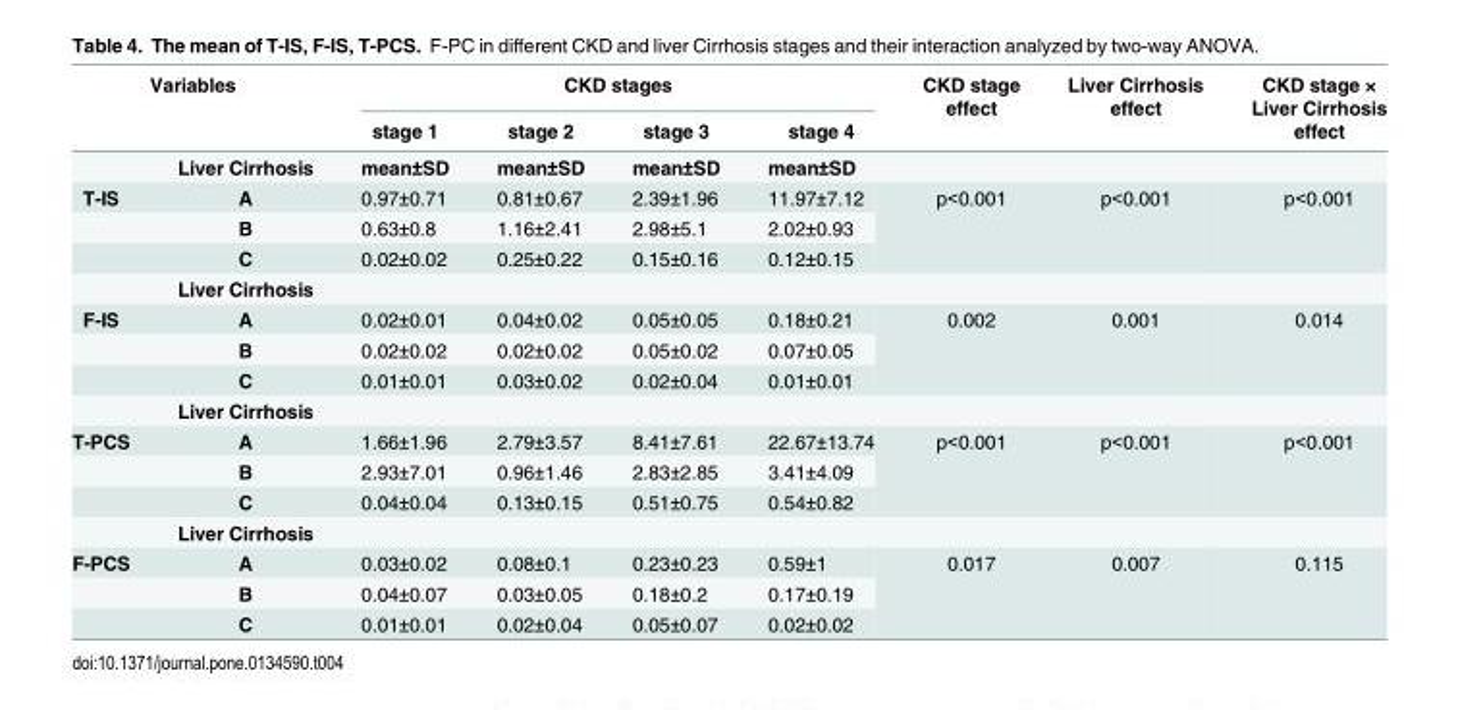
<table><thead><tr><td rowspan="3" colspan="2">Variables</td><td rowspan="2" colspan="4">CKD stages</td><td rowspan="4">CKD stage effect</td><td rowspan="4">Liver Cirrhosis effect</td><td rowspan="4">CKD stage × Liver Cirrhosis effect</td></tr><tr></tr><tr><td rowspan="2">stage 1 mean±SD</td><td rowspan="2">stage 2 mean±SD</td><td rowspan="2">stage 3 mean±SD</td><td rowspan="2">stage 4 mean±SD</td></tr><tr><td></td><td>Liver Cirrhosis</td></tr></thead><tbody><tr><td rowspan="4">T-IS</td><td>A</td><td>0.97±0.71</td><td>0.81±0.67</td><td>2.39±1.96</td><td>11.97±7.12</td><td rowspan="3">p&lt;0.001</td><td rowspan="3">p&lt;0.001</td><td rowspan="3">p&lt;0.001</td></tr><tr><td>B</td><td>0.63±0.8</td><td>1.16±2.41</td><td>2.98±5.1</td><td>2.02±0.93</td></tr><tr><td>C</td><td>0.02±0.02</td><td>0.25±0.22</td><td>0.15±0.16</td><td>0.12±0.15</td></tr><tr><td>Liver Cirrhosis</td><td></td><td></td><td></td><td></td><td></td><td></td><td></td></tr><tr><td rowspan="4">F-IS</td><td>A</td><td>0.02±0.01</td><td>0.04±0.02</td><td>0.05±0.05</td><td>0.18±0.21</td><td rowspan="3">0.002</td><td rowspan="3">0.001</td><td rowspan="3">0.014</td></tr><tr><td>B</td><td>0.02±0.02</td><td>0.02±0.02</td><td>0.05±0.02</td><td>0.07±0.05</td></tr><tr><td>C</td><td>0.01±0.01</td><td>0.03±0.02</td><td>0.02±0.04</td><td>0.01±0.01</td></tr><tr><td>Liver Cirrhosis</td><td></td><td></td><td></td><td></td><td></td><td></td><td></td></tr><tr><td rowspan="4">T-PCS</td><td>A</td><td>1.66±1.96</td><td>2.79±3.57</td><td>8.41±7.61</td><td>22.67±13.74</td><td rowspan="3">p&lt;0.001</td><td rowspan="3">p&lt;0.001</td><td rowspan="3">p&lt;0.001</td></tr><tr><td>B</td><td>2.93±7.01</td><td>0.96±1.46</td><td>2.83±2.85</td><td>3.41±4.09</td></tr><tr><td>C</td><td>0.04±0.04</td><td>0.13±0.15</td><td>0.51±0.75</td><td>0.54±0.82</td></tr><tr><td>Liver Cirrhosis</td><td></td><td></td><td></td><td></td><td></td><td></td><td></td></tr><tr><td rowspan="3">F-PCS</td><td>A</td><td>0.03±0.02</td><td>0.08±0.1</td><td>0.23±0.23</td><td>0.59±1</td><td rowspan="3">0.017</td><td rowspan="3">0.007</td><td rowspan="3">0.115</td></tr><tr><td>B</td><td>0.04±0.07</td><td>0.03±0.05</td><td>0.18±0.2</td><td>0.17±0.19</td></tr><tr><td>C</td><td>0.01±0.01</td><td>0.02±0.04</td><td>0.05±0.07</td><td>0.02±0.02</td></tr></tbody></table>